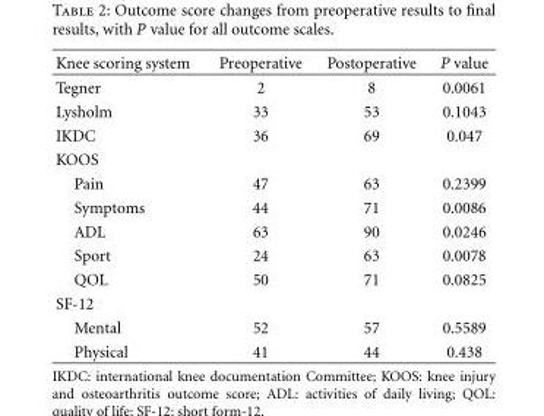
<table><thead><tr><td>Knee scoring system</td><td>Preoperative</td><td>Postoperative</td><td>P value</td></tr></thead><tbody><tr><td>Tegner</td><td>2</td><td>8</td><td>0.0061</td></tr><tr><td>Lysholm</td><td>33</td><td>53</td><td>0.1043</td></tr><tr><td>IKDC</td><td>36</td><td>69</td><td>0.047</td></tr><tr><td colspan="4">KOOS</td></tr><tr><td>Pain</td><td>47</td><td>63</td><td>0.2399</td></tr><tr><td>Symptoms</td><td>44</td><td>71</td><td>0.0086</td></tr><tr><td>ADL</td><td>63</td><td>90</td><td>0.0246</td></tr><tr><td>Sport</td><td>24</td><td>63</td><td>0.0078</td></tr><tr><td>QOL</td><td>50</td><td>71</td><td>0.0825</td></tr><tr><td colspan="4">SF-12</td></tr><tr><td>Mental</td><td>52</td><td>57</td><td>0.5589</td></tr><tr><td>Physical</td><td>41</td><td>44</td><td>0.438</td></tr></tbody></table>